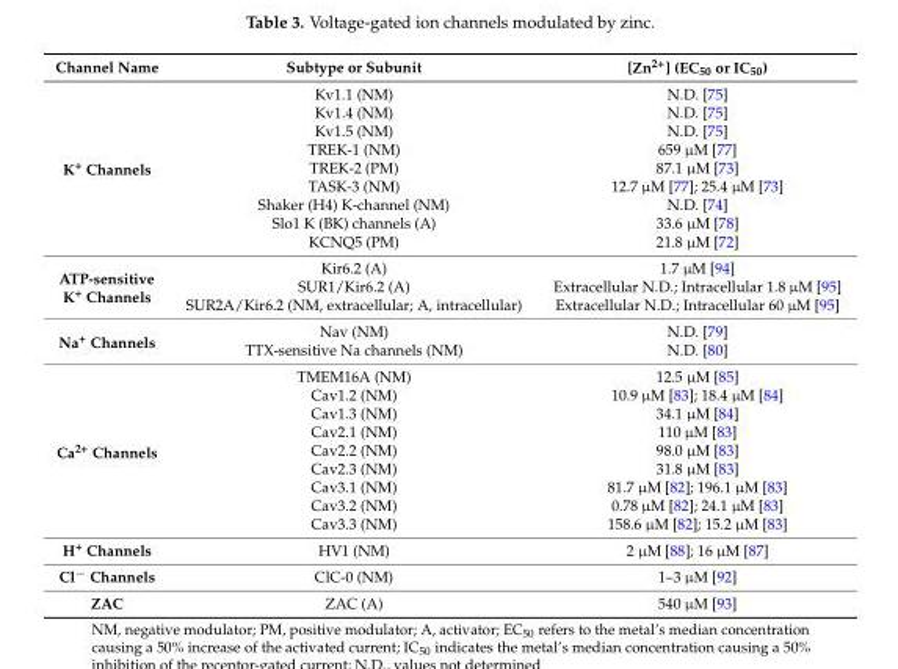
<table><thead><tr><td>Channel Name</td><td>Subtype or Subunit</td><td>[Zn<sup>2+</sup>] (EC<sub>50</sub> or IC<sub>50</sub>)</td></tr></thead><tbody><tr><td rowspan="9">K<sup>+</sup> Channels</td><td>Kv1.1 (NM)</td><td>N.D. [75]</td></tr><tr><td>Kv1.4 (NM)</td><td>N.D. [75]</td></tr><tr><td>Kv1.5 (NM)</td><td>N.D. [75]</td></tr><tr><td>TREK-1 (NM)</td><td>659 µM [77]</td></tr><tr><td>TREK-2 (PM)</td><td>87.1 µM [73]</td></tr><tr><td>TASK-3 (NM)</td><td>12.7 µM [77]; 25.4 µM [73]</td></tr><tr><td>Shaker (H4) K-channel (NM)</td><td>N.D. [74]</td></tr><tr><td>Slo1 K (BK) channels (A)</td><td>33.6 µM [78]</td></tr><tr><td>KCNQ5 (PM)</td><td>21.8 µM [72]</td></tr><tr><td rowspan="3">ATP-sensitive K<sup>+</sup> Channels</td><td>Kir6.2 (A)</td><td>1.7 µM [94]</td></tr><tr><td>SUR1/Kir6.2 (A)</td><td>Extracellular N.D.; Intracellular 1.8 µM [95]</td></tr><tr><td>SUR2A/Kir6.2 (NM, extracellular; A, intracellular)</td><td>Extracellular N.D.; Intracellular 60 µM [95]</td></tr><tr><td rowspan="2">Na<sup>+</sup> Channels</td><td>Nav (NM)</td><td>N.D. [79]</td></tr><tr><td>TTX-sensitive Na channels (NM)</td><td>N.D. [80]</td></tr><tr><td rowspan="9">Ca<sup>2+</sup> Channels</td><td>TMEM16A (NM)</td><td>12.5 µM [85]</td></tr><tr><td>Cav1.2 (NM)</td><td>10.9 µM [83]; 18.4 µM [84]</td></tr><tr><td>Cav1.3 (NM)</td><td>34.1 µM [84]</td></tr><tr><td>Cav2.1 (NM)</td><td>110 µM [83]</td></tr><tr><td>Cav2.2 (NM)</td><td>98.0 µM [83]</td></tr><tr><td>Cav2.3 (NM)</td><td>31.8 µM [83]</td></tr><tr><td>Cav3.1 (NM)</td><td>81.7 µM [82]; 196.1 µM [83]</td></tr><tr><td>Cav3.2 (NM)</td><td>0.78 µM [82]; 24.1 µM [83]</td></tr><tr><td>Cav3.3 (NM)</td><td>158.6 µM [82]; 15.2 µM [83]</td></tr><tr><td>H<sup>+</sup> Channels</td><td>HV1 (NM)</td><td>2 µM [88]; 16 µM [87]</td></tr><tr><td>Cl<sup>−</sup> Channels</td><td>ClC-0 (NM)</td><td>1–3 µM [92]</td></tr><tr><td>ZAC</td><td>ZAC (A)</td><td>540 µM [93]</td></tr></tbody></table>